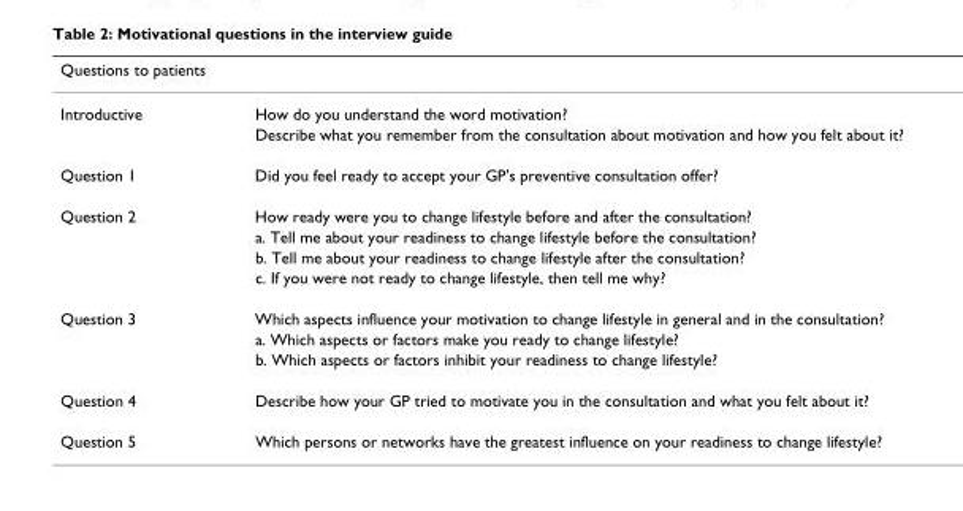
<table><thead><tr><td>Questions to patients</td><td></td></tr></thead><tbody><tr><td rowspan="2">Introductive</td><td>How do you understand the word motivation?</td></tr><tr><td>Describe what you remember from the consultation about motivation and how you felt about it?</td></tr><tr><td>Question 1</td><td>Did you feel ready to accept your GP&#x27;s preventive consultation offer?</td></tr><tr><td rowspan="4">Question 2</td><td>How ready were you to change lifestyle before and after the consultation?</td></tr><tr><td>a. Tell me about your readiness to change lifestyle before the consultation?</td></tr><tr><td>b. Tell me about your readiness to change lifestyle after the consultation?</td></tr><tr><td>c. If you were not ready to change lifestyle, then tell me why?</td></tr><tr><td rowspan="3">Question 3</td><td>Which aspects influence your motivation to change lifestyle in general and in the consultation?</td></tr><tr><td>a. Which aspects or factors make you ready to change lifestyle?</td></tr><tr><td>b. Which aspects or factors inhibit your readiness to change lifestyle?</td></tr><tr><td>Question 4</td><td>Describe how your GP tried to motivate you in the consultation and what you felt about it?</td></tr><tr><td>Question 5</td><td>Which persons or networks have the greatest influence on your readiness to change lifestyle?</td></tr></tbody></table>